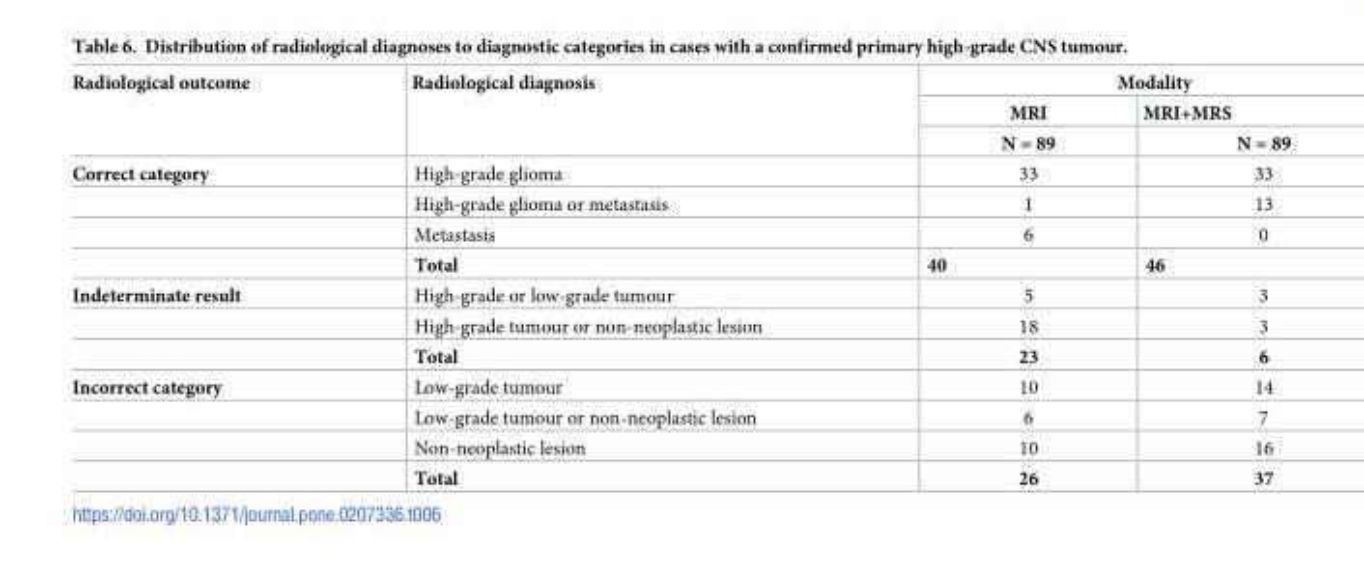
<table><thead><tr><td rowspan="3">Radiological outcome</td><td rowspan="3">Radiological diagnosis</td><td colspan="2">Modality</td></tr><tr><td rowspan="2">MRI N = 89</td><td rowspan="2">MRI+MRS N = 89</td></tr><tr></tr></thead><tbody><tr><td rowspan="4">Correct category</td><td>High-grade glioma</td><td>33</td><td>33</td></tr><tr><td>High-grade glioma or metastasis</td><td>1</td><td>13</td></tr><tr><td>Metastasis</td><td>6</td><td>0</td></tr><tr><td>Total</td><td>40</td><td>46</td></tr><tr><td rowspan="3">Indeterminate result</td><td>High-grade or low-grade tumour</td><td>5</td><td>3</td></tr><tr><td>High-grade tumour or non-neoplastic lesion</td><td>18</td><td>3</td></tr><tr><td>Total</td><td>23</td><td>6</td></tr><tr><td rowspan="4">Incorrect category</td><td>Low-grade tumour</td><td>10</td><td>14</td></tr><tr><td>Low-grade tumour or non-neoplastic lesion</td><td>6</td><td>7</td></tr><tr><td>Non-neoplastic lesion</td><td>10</td><td>16</td></tr><tr><td>Total</td><td>26</td><td>37</td></tr></tbody></table>